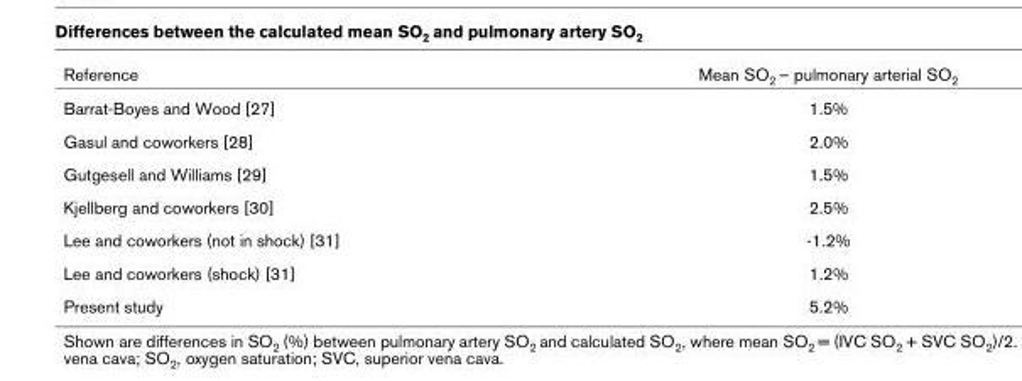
<table><thead><tr><td>Reference</td><td>Mean SO<sub>2</sub> – pulmonary arterial SO<sub>2</sub></td></tr></thead><tbody><tr><td>Barrat-Boyes and Wood [27]</td><td>1.5%</td></tr><tr><td>Gasul and coworkers [28]</td><td>2.0%</td></tr><tr><td>Gutgesell and Williams [29]</td><td>1.5%</td></tr><tr><td>Kjellberg and coworkers [30]</td><td>2.5%</td></tr><tr><td>Lee and coworkers (not in shock) [31]</td><td>-1.2%</td></tr><tr><td>Lee and coworkers (shock) [31]</td><td>1.2%</td></tr><tr><td>Present study</td><td>5.2%</td></tr></tbody></table>